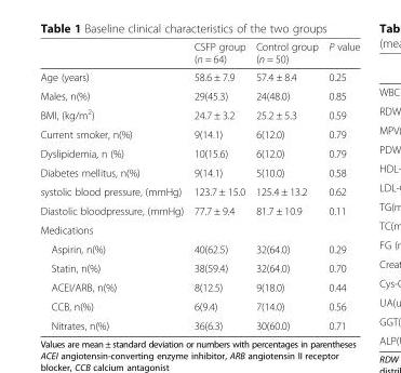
<table><thead><tr><td></td><td>CSFP group (n = 64)</td><td>Control group (n = 50)</td><td>P value</td></tr></thead><tbody><tr><td>Age (years)</td><td>58.6 ± 7.9</td><td>57.4 ± 8.4</td><td>0.25</td></tr><tr><td>Males, n(%)</td><td>29(45.3)</td><td>24(48.0)</td><td>0.85</td></tr><tr><td>BMI, (kg/m<sup>2</sup>)</td><td>24.7 ± 3.2</td><td>25.2 ± 5.3</td><td>0.59</td></tr><tr><td>Current smoker, n(%)</td><td>9(14.1)</td><td>6(12.0)</td><td>0.79</td></tr><tr><td>Dyslipidemia, n (%)</td><td>10(15.6)</td><td>6(12.0)</td><td>0.79</td></tr><tr><td>Diabetes mellitus, n(%)</td><td>9(14.1)</td><td>5(10.0)</td><td>0.58</td></tr><tr><td>systolic blood pressure, (mmHg)</td><td>123.7 ± 15.0</td><td>125.4 ± 13.2</td><td>0.62</td></tr><tr><td>Diastolic bloodpressure, (mmHg)</td><td>77.7 ± 9.4</td><td>81.7 ± 10.9</td><td>0.11</td></tr><tr><td colspan="4">Medications</td></tr><tr><td>Aspirin, n(%)</td><td>40(62.5)</td><td>32(64.0)</td><td>0.29</td></tr><tr><td>Statin, n(%)</td><td>38(59.4)</td><td>32(64.0)</td><td>0.70</td></tr><tr><td>ACEI/ARB, n(%)</td><td>8(12.5)</td><td>9(18.0)</td><td>0.44</td></tr><tr><td>CCB, n(%)</td><td>6(9.4)</td><td>7(14.0)</td><td>0.56</td></tr><tr><td>Nitrates, n(%)</td><td>36(6.3)</td><td>30(60.0)</td><td>0.71</td></tr></tbody></table>